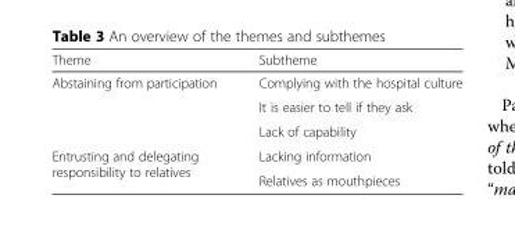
<table><thead><tr><td>Theme</td><td>Subtheme</td></tr></thead><tbody><tr><td rowspan="3">Abstaining from participation</td><td>Complying with the hospital culture</td></tr><tr><td>It is easier to tell if they ask</td></tr><tr><td>Lack of capability</td></tr><tr><td rowspan="2">Entrusting and delegating responsibility to relatives</td><td>Lacking information</td></tr><tr><td>Relatives as mouthpieces</td></tr></tbody></table>